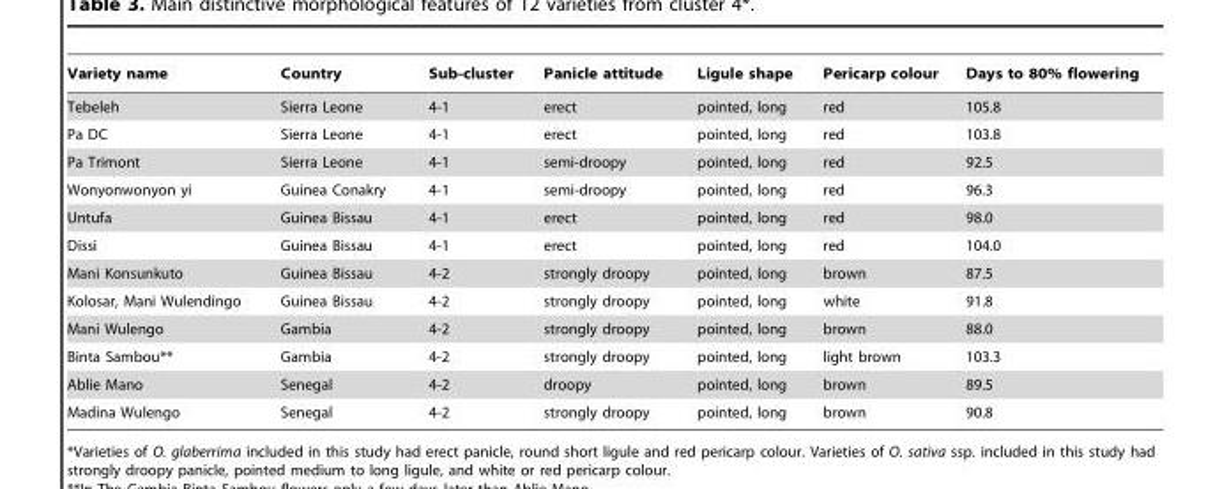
<table><thead><tr><td>Variety name</td><td>Country</td><td>Sub-cluster</td><td>Panicle attitude</td><td>Ligule shape</td><td>Pericarp colour</td><td>Days to 80% flowering</td></tr></thead><tbody><tr><td>Tebeleh</td><td>Sierra Leone</td><td>4-1</td><td>erect</td><td>pointed, long</td><td>red</td><td>105.8</td></tr><tr><td>Pa DC</td><td>Sierra Leone</td><td>4-1</td><td>erect</td><td>pointed, long</td><td>red</td><td>103.8</td></tr><tr><td>Pa Trimont</td><td>Sierra Leone</td><td>4-1</td><td>semi-droopy</td><td>pointed, long</td><td>red</td><td>92.5</td></tr><tr><td>Wonyonwonyon yi</td><td>Guinea Conakry</td><td>4-1</td><td>semi-droopy</td><td>pointed, long</td><td>red</td><td>96.3</td></tr><tr><td>Untufa</td><td>Guinea Bissau</td><td>4-1</td><td>erect</td><td>pointed, long</td><td>red</td><td>98.0</td></tr><tr><td>Dissi</td><td>Guinea Bissau</td><td>4-1</td><td>erect</td><td>pointed, long</td><td>red</td><td>104.0</td></tr><tr><td>Mani Konsunkuto</td><td>Guinea Bissau</td><td>4-2</td><td>strongly droopy</td><td>pointed, long</td><td>brown</td><td>87.5</td></tr><tr><td>Kolosar, Mani Wulendingo</td><td>Guinea Bissau</td><td>4-2</td><td>strongly droopy</td><td>pointed, long</td><td>white</td><td>91.8</td></tr><tr><td>Mani Wulengo</td><td>Gambia</td><td>4-2</td><td>strongly droopy</td><td>pointed, long</td><td>brown</td><td>88.0</td></tr><tr><td>Binta Sambou**</td><td>Gambia</td><td>4-2</td><td>strongly droopy</td><td>pointed, long</td><td>light brown</td><td>103.3</td></tr><tr><td>Ablie Mano</td><td>Senegal</td><td>4-2</td><td>droopy</td><td>pointed, long</td><td>brown</td><td>89.5</td></tr><tr><td>Madina Wulengo</td><td>Senegal</td><td>4-2</td><td>strongly droopy</td><td>pointed, long</td><td>brown</td><td>90.8</td></tr></tbody></table>